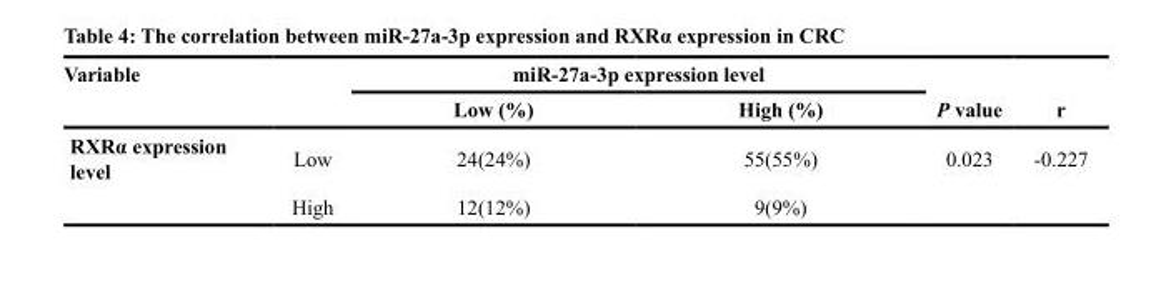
<table><thead><tr><td colspan="2">Variable</td><td colspan="2">miR-27a-3p expression level</td><td rowspan="2">P value</td><td rowspan="2">r</td></tr><tr><td></td><td></td><td>Low (%)</td><td>High (%)</td></tr></thead><tbody><tr><td rowspan="2">RXRα expression level</td><td>Low</td><td>24(24%)</td><td>55(55%)</td><td>0.023</td><td>-0.227</td></tr><tr><td>High</td><td>12(12%)</td><td>9(9%)</td><td></td><td></td></tr></tbody></table>